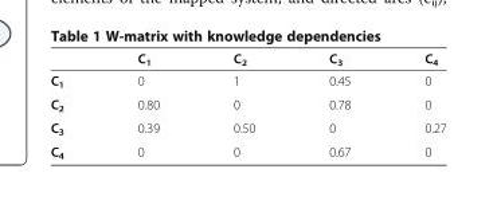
<table><thead><tr><td></td><td>C<sub>1</sub></td><td>C<sub>2</sub></td><td>C<sub>3</sub></td><td>C<sub>4</sub></td></tr></thead><tbody><tr><td>C<sub>1</sub></td><td>0</td><td>1</td><td>0.45</td><td>0</td></tr><tr><td>C<sub>2</sub></td><td>0.80</td><td>0</td><td>0.78</td><td>0</td></tr><tr><td>C<sub>3</sub></td><td>0.39</td><td>0.50</td><td>0</td><td>0.27</td></tr><tr><td>C<sub>4</sub></td><td>0</td><td>0</td><td>0.67</td><td>0</td></tr></tbody></table>